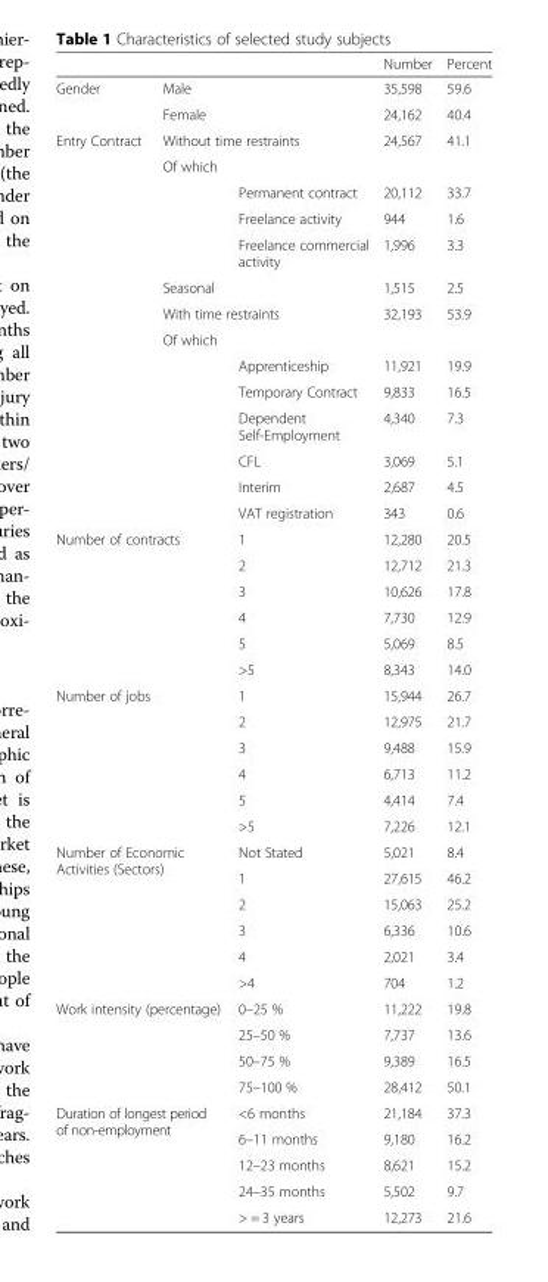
<table><thead><tr><td></td><td></td><td></td><td>Number</td><td>Percent</td></tr></thead><tbody><tr><td rowspan="2">Gender</td><td colspan="2">Male</td><td>35,598</td><td>59.6</td></tr><tr><td colspan="2">Female</td><td>24,162</td><td>40.4</td></tr><tr><td rowspan="14">Entry Contract</td><td colspan="2">Without time restraints</td><td>24,567</td><td>41.1</td></tr><tr><td>Of which</td><td></td><td></td><td></td></tr><tr><td rowspan="3"></td><td>Permanent contract</td><td>20,112</td><td>33.7</td></tr><tr><td>Freelance activity</td><td>944</td><td>1.6</td></tr><tr><td>Freelance commercial activity</td><td>1,996</td><td>3.3</td></tr><tr><td colspan="2">Seasonal</td><td>1,515</td><td>2.5</td></tr><tr><td colspan="2">With time restraints</td><td>32,193</td><td>53.9</td></tr><tr><td>Of which</td><td></td><td></td><td></td></tr><tr><td rowspan="6"></td><td>Apprenticeship</td><td>11,921</td><td>19.9</td></tr><tr><td>Temporary Contract</td><td>9,833</td><td>16.5</td></tr><tr><td>Dependent Self-Employment</td><td>4,340</td><td>7.3</td></tr><tr><td>CFL</td><td>3,069</td><td>5.1</td></tr><tr><td>Interim</td><td>2,687</td><td>4.5</td></tr><tr><td>VAT registration</td><td>343</td><td>0.6</td></tr><tr><td rowspan="6" colspan="2">Number of contracts</td><td>1</td><td>12,280</td><td>20.5</td></tr><tr><td>2</td><td>12,712</td><td>21.3</td></tr><tr><td>3</td><td>10,626</td><td>17.8</td></tr><tr><td>4</td><td>7,730</td><td>12.9</td></tr><tr><td>5</td><td>5,069</td><td>8.5</td></tr><tr><td>&gt;5</td><td>8,343</td><td>14.0</td></tr><tr><td rowspan="6" colspan="2">Number of jobs</td><td>1</td><td>15,944</td><td>26.7</td></tr><tr><td>2</td><td>12,975</td><td>21.7</td></tr><tr><td>3</td><td>9,488</td><td>15.9</td></tr><tr><td>4</td><td>6,713</td><td>11.2</td></tr><tr><td>5</td><td>4,414</td><td>7.4</td></tr><tr><td>&gt;5</td><td>7,226</td><td>12.1</td></tr><tr><td rowspan="6" colspan="2">Number of Economic Activities (Sectors)</td><td>Not Stated</td><td>5,021</td><td>8.4</td></tr><tr><td>1</td><td>27,615</td><td>46.2</td></tr><tr><td>2</td><td>15,063</td><td>25.2</td></tr><tr><td>3</td><td>6,336</td><td>10.6</td></tr><tr><td>4</td><td>2,021</td><td>3.4</td></tr><tr><td>&gt;4</td><td>704</td><td>1.2</td></tr><tr><td rowspan="4" colspan="2">Work intensity (percentage)</td><td>0–25 %</td><td>11,222</td><td>19.8</td></tr><tr><td>25–50 %</td><td>7,737</td><td>13.6</td></tr><tr><td>50–75 %</td><td>9,389</td><td>16.5</td></tr><tr><td>75–100 %</td><td>28,412</td><td>50.1</td></tr><tr><td rowspan="5" colspan="2">Duration of longest period of non-employment</td><td>&lt;6 months</td><td>21,184</td><td>37.3</td></tr><tr><td>6–11 months</td><td>9,180</td><td>16.2</td></tr><tr><td>12–23 months</td><td>8,621</td><td>15.2</td></tr><tr><td>24–35 months</td><td>5,502</td><td>9.7</td></tr><tr><td>&gt; = 3 years</td><td>12,273</td><td>21.6</td></tr></tbody></table>